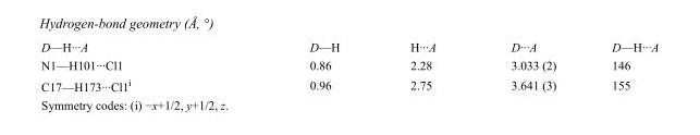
<table><tbody><tr><td>D—H···A</td><td>D—H</td><td>H···A</td><td>D···A</td><td>D—H···A</td></tr><tr><td>N1—H101···Cl1</td><td>0.86</td><td>2.28</td><td>3.033 (2)</td><td>146</td></tr><tr><td>C17—H173···Cl1<sup>i</sup></td><td>0.96</td><td>2.75</td><td>3.641 (3)</td><td>155</td></tr></tbody></table>